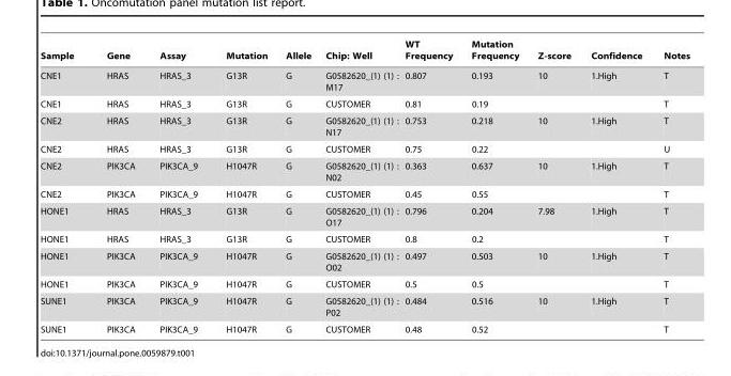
<table><thead><tr><td>Sample</td><td>Gene</td><td>Assay</td><td>Mutation</td><td>Allele</td><td>Chip: Well</td><td>WT Frequency</td><td>Mutation Frequency</td><td>Z-score</td><td>Confidence</td><td>Notes</td></tr></thead><tbody><tr><td>CNE1</td><td>HRAS</td><td>HRAS_3</td><td>G13R</td><td>G</td><td>G0582620_(1) (1) : M17</td><td>0.807</td><td>0.193</td><td>10</td><td>1.High</td><td>T</td></tr><tr><td>CNE1</td><td>HRAS</td><td>HRAS_3</td><td>G13R</td><td>G</td><td>CUSTOMER</td><td>0.81</td><td>0.19</td><td></td><td></td><td>T</td></tr><tr><td>CNE2</td><td>HRAS</td><td>HRAS_3</td><td>G13R</td><td>G</td><td>G0582620_(1) (1) : N17</td><td>0.753</td><td>0.218</td><td>10</td><td>1.High</td><td>T</td></tr><tr><td>CNE2</td><td>HRAS</td><td>HRAS_3</td><td>G13R</td><td>G</td><td>CUSTOMER</td><td>0.75</td><td>0.22</td><td></td><td></td><td>U</td></tr><tr><td>CNE2</td><td>PIK3CA</td><td>PIK3CA_9</td><td>H1047R</td><td>G</td><td>G0582620_(1) (1) : N02</td><td>0.363</td><td>0.637</td><td>10</td><td>1.High</td><td>T</td></tr><tr><td>CNE2</td><td>PIK3CA</td><td>PIK3CA_9</td><td>H1047R</td><td>G</td><td>CUSTOMER</td><td>0.45</td><td>0.55</td><td></td><td></td><td>T</td></tr><tr><td>HONE1</td><td>HRAS</td><td>HRAS_3</td><td>G13R</td><td>G</td><td>G0582620_(1) (1) : O17</td><td>0.796</td><td>0.204</td><td>7.98</td><td>1.High</td><td>T</td></tr><tr><td>HONE1</td><td>HRAS</td><td>HRAS_3</td><td>G13R</td><td>G</td><td>CUSTOMER</td><td>0.8</td><td>0.2</td><td></td><td></td><td>T</td></tr><tr><td>HONE1</td><td>PIK3CA</td><td>PIK3CA_9</td><td>H1047R</td><td>G</td><td>G0582620_(1) (1) : O02</td><td>0.497</td><td>0.503</td><td>10</td><td>1.High</td><td>T</td></tr><tr><td>HONE1</td><td>PIK3CA</td><td>PIK3CA_9</td><td>H1047R</td><td>G</td><td>CUSTOMER</td><td>0.5</td><td>0.5</td><td></td><td></td><td>T</td></tr><tr><td>SUNE1</td><td>PIK3CA</td><td>PIK3CA_9</td><td>H1047R</td><td>G</td><td>G0582620_(1) (1) : P02</td><td>0.484</td><td>0.516</td><td>10</td><td>1.High</td><td>T</td></tr><tr><td>SUNE1</td><td>PIK3CA</td><td>PIK3CA_9</td><td>H1047R</td><td>G</td><td>CUSTOMER</td><td>0.48</td><td>0.52</td><td></td><td></td><td>T</td></tr></tbody></table>